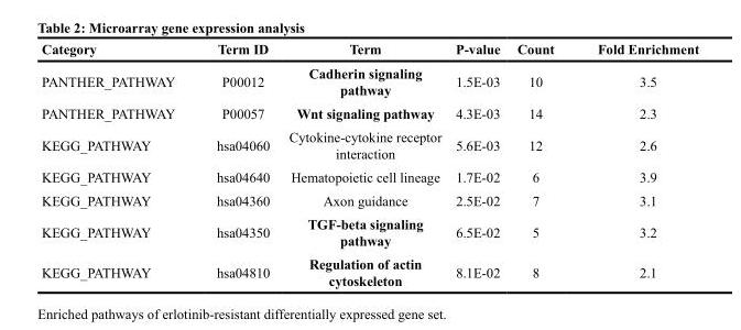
<table><thead><tr><td>Category</td><td>Term ID</td><td>Term</td><td>P-value</td><td>Count</td><td>Fold Enrichment</td></tr></thead><tbody><tr><td>PANTHER_PATHWAY</td><td>P00012</td><td>Cadherin signaling pathway</td><td>1.5E-03</td><td>10</td><td>3.5</td></tr><tr><td>PANTHER_PATHWAY</td><td>P00057</td><td>Wnt signaling pathway</td><td>4.3E-03</td><td>14</td><td>2.3</td></tr><tr><td>KEGG_PATHWAY</td><td>hsa04060</td><td>Cytokine-cytokine receptor interaction</td><td>5.6E-03</td><td>12</td><td>2.6</td></tr><tr><td>KEGG_PATHWAY</td><td>hsa04640</td><td>Hematopoietic cell lineage</td><td>1.7E-02</td><td>6</td><td>3.9</td></tr><tr><td>KEGG_PATHWAY</td><td>hsa04360</td><td>Axon guidance</td><td>2.5E-02</td><td>7</td><td>3.1</td></tr><tr><td>KEGG_PATHWAY</td><td>hsa04350</td><td>TGF-beta signaling pathway</td><td>6.5E-02</td><td>5</td><td>3.2</td></tr><tr><td>KEGG_PATHWAY</td><td>hsa04810</td><td>Regulation of actin cytoskeleton</td><td>8.1E-02</td><td>8</td><td>2.1</td></tr></tbody></table>